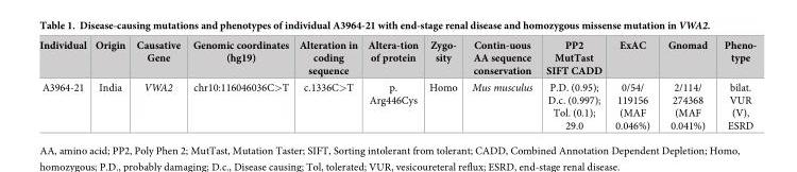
<table><thead><tr><td>Individual</td><td>Origin</td><td>Causative Gene</td><td>Genomic coordinates (hg19)</td><td>Alteration in coding sequence</td><td>Altera-tion of protein</td><td>Zygo- sity</td><td>Contin-uous AA sequence conservation</td><td>PP2 MutTast SIFT CADD</td><td>ExAC</td><td>Gnomad</td><td>Pheno- type</td></tr></thead><tbody><tr><td>A3964-21</td><td>India</td><td>VWA2</td><td>chr10:116046036C&gt;T</td><td>c.1336C&gt;T</td><td>p. Arg446Cys</td><td>Homo</td><td>Mus musculus</td><td>P.D. (0.95); D.c. (0.997); Tol. (0.1); 29.0</td><td>0/54/ 119156 (MAF 0.046%)</td><td>2/114/ 274368 (MAF 0.041%)</td><td>bilat. VUR (V), ESRD</td></tr></tbody></table>